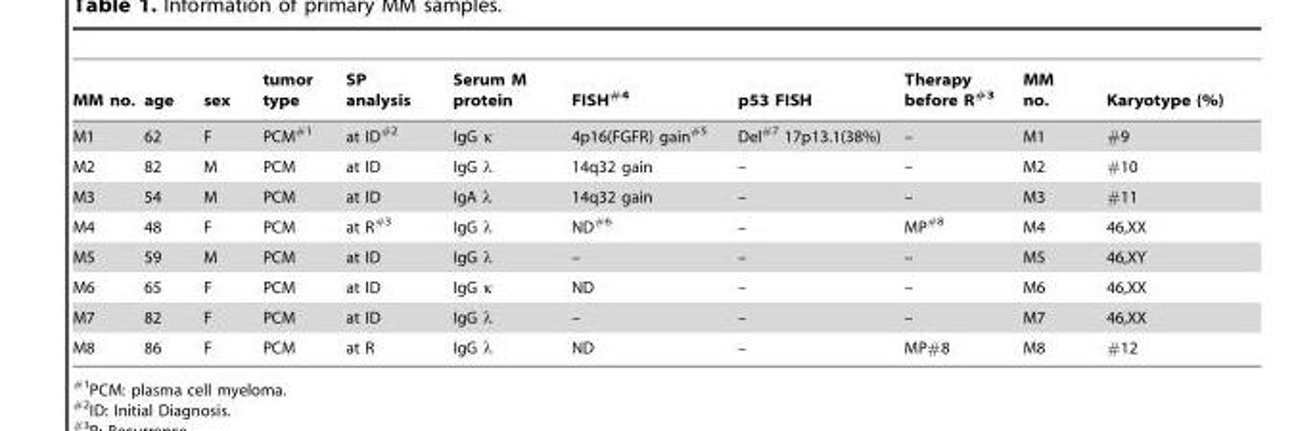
<table><thead><tr><td>MM no.</td><td>age</td><td>sex</td><td>tumor type</td><td>SP analysis</td><td>Serum M protein</td><td>FISH#4</td><td>p53 FISH</td><td>Therapy before R#3</td><td>MM no.</td><td>Karyotype (%)</td></tr></thead><tbody><tr><td>M1</td><td>62</td><td>F</td><td>PCM#1</td><td>at ID#2</td><td>IgG κ</td><td>4p16(FGFR) gain#5</td><td>Del#7 17p13.1(38%)</td><td>–</td><td>M1</td><td>#9</td></tr><tr><td>M2</td><td>82</td><td>M</td><td>PCM</td><td>at ID</td><td>IgG λ</td><td>14q32 gain</td><td>–</td><td>–</td><td>M2</td><td>#10</td></tr><tr><td>M3</td><td>54</td><td>M</td><td>PCM</td><td>at ID</td><td>IgA λ</td><td>14q32 gain</td><td>–</td><td>–</td><td>M3</td><td>#11</td></tr><tr><td>M4</td><td>48</td><td>F</td><td>PCM</td><td>at R#3</td><td>IgG λ</td><td>ND#6</td><td>–</td><td>MP#8</td><td>M4</td><td>46,XX</td></tr><tr><td>M5</td><td>59</td><td>M</td><td>PCM</td><td>at ID</td><td>IgG λ</td><td>–</td><td>–</td><td>–</td><td>M5</td><td>46,XY</td></tr><tr><td>M6</td><td>65</td><td>F</td><td>PCM</td><td>at ID</td><td>IgG κ</td><td>ND</td><td>–</td><td>–</td><td>M6</td><td>46,XX</td></tr><tr><td>M7</td><td>82</td><td>F</td><td>PCM</td><td>at ID</td><td>IgG λ</td><td>–</td><td>–</td><td>–</td><td>M7</td><td>46,XX</td></tr><tr><td>M8</td><td>86</td><td>F</td><td>PCM</td><td>at R</td><td>IgG λ</td><td>ND</td><td>–</td><td>MP#8</td><td>M8</td><td>#12</td></tr></tbody></table>